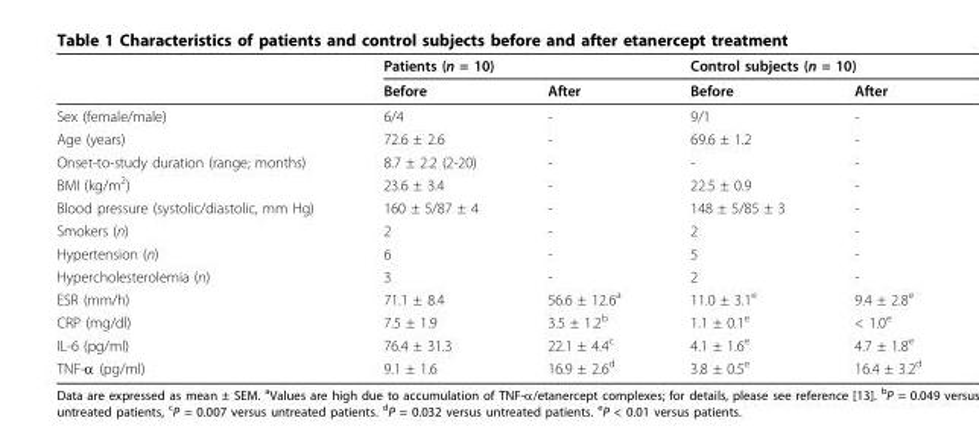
<table><thead><tr><td rowspan="2"></td><td colspan="2">Patients (n = 10)</td><td colspan="2">Control subjects (n = 10)</td></tr><tr><td>Before</td><td>After</td><td>Before</td><td>After</td></tr></thead><tbody><tr><td>Sex (female/male)</td><td>6/4</td><td>-</td><td>9/1</td><td>-</td></tr><tr><td>Age (years)</td><td>72.6 ± 2.6</td><td>-</td><td>69.6 ± 1.2</td><td>-</td></tr><tr><td>Onset-to-study duration (range; months)</td><td>8.7 ± 2.2 (2-20)</td><td>-</td><td>-</td><td>-</td></tr><tr><td>BMI (kg/m<sup>2</sup>)</td><td>23.6 ± 3.4</td><td>-</td><td>22.5 ± 0.9</td><td>-</td></tr><tr><td>Blood pressure (systolic/diastolic, mm Hg)</td><td>160 ± 5/87 ± 4</td><td>-</td><td>148 ± 5/85 ± 3</td><td>-</td></tr><tr><td>Smokers (n)</td><td>2</td><td>-</td><td>2</td><td>-</td></tr><tr><td>Hypertension (n)</td><td>6</td><td>-</td><td>5</td><td>-</td></tr><tr><td>Hypercholesterolemia (n)</td><td>3</td><td>-</td><td>2</td><td>-</td></tr><tr><td>ESR (mm/h)</td><td>71.1 ± 8.4</td><td>56.6 ± 12.6<sup>a</sup></td><td>11.0 ± 3.1<sup>e</sup></td><td>9.4 ± 2.8<sup>e</sup></td></tr><tr><td>CRP (mg/dl)</td><td>7.5 ± 1.9</td><td>3.5 ± 1.2<sup>b</sup></td><td>1.1 ± 0.1<sup>e</sup></td><td>&lt; 1.0<sup>e</sup></td></tr><tr><td>IL-6 (pg/ml)</td><td>76.4 ± 31.3</td><td>22.1 ± 4.4<sup>c</sup></td><td>4.1 ± 1.6<sup>e</sup></td><td>4.7 ± 1.8<sup>e</sup></td></tr><tr><td>TNF-α (pg/ml)</td><td>9.1 ± 1.6</td><td>16.9 ± 2.6<sup>d</sup></td><td>3.8 ± 0.5<sup>e</sup></td><td>16.4 ± 3.2<sup>d</sup></td></tr></tbody></table>